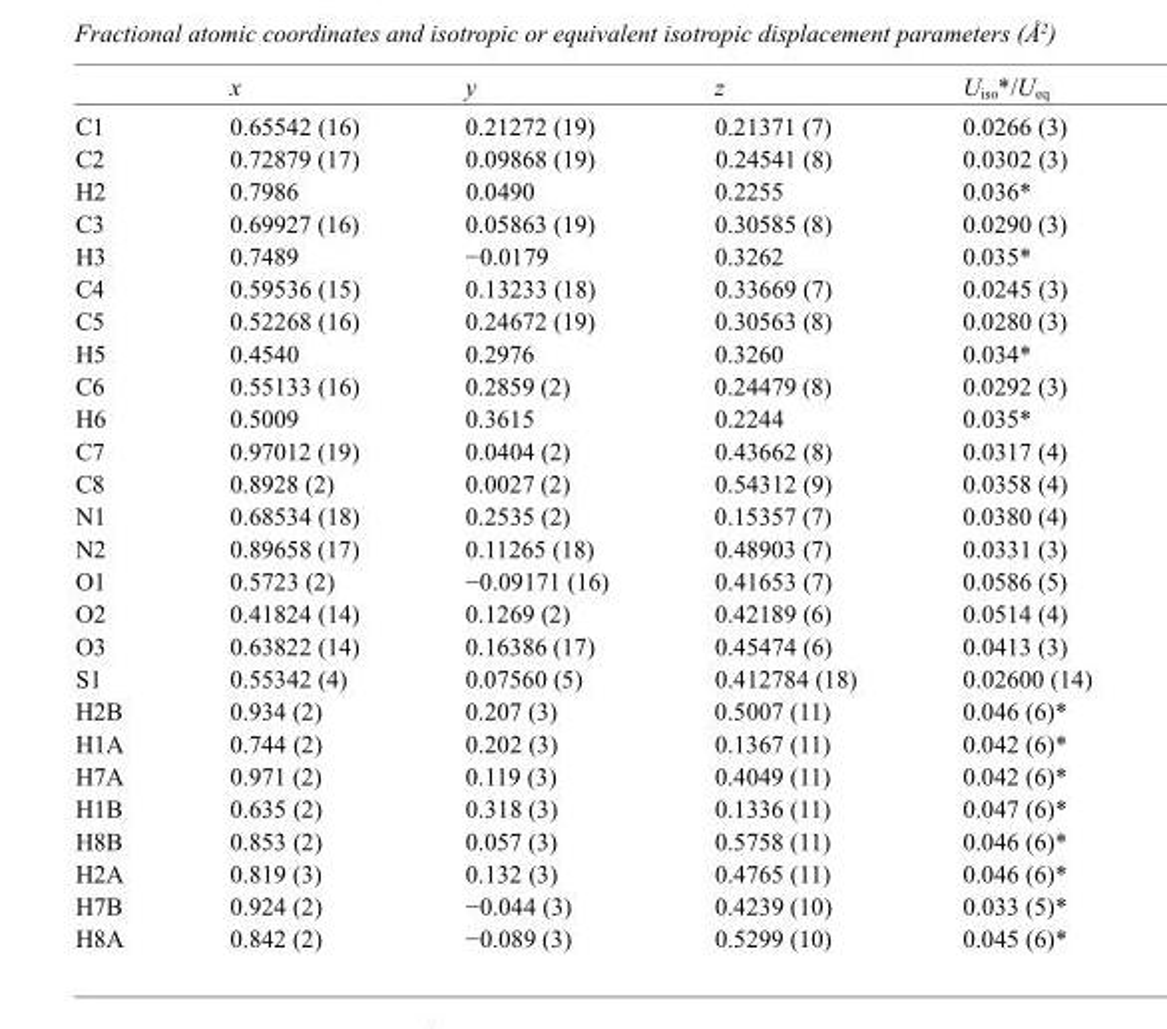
<table><thead><tr><td></td><td>x</td><td>y</td><td>z</td><td>U<sub>iso</sub>*/U<sub>eq</sub></td></tr></thead><tbody><tr><td>C1</td><td>0.65542 (16)</td><td>0.21272 (19)</td><td>0.21371 (7)</td><td>0.0266 (3)</td></tr><tr><td>C2</td><td>0.72879 (17)</td><td>0.09868 (19)</td><td>0.24541 (8)</td><td>0.0302 (3)</td></tr><tr><td>H2</td><td>0.7986</td><td>0.0490</td><td>0.2255</td><td>0.036*</td></tr><tr><td>C3</td><td>0.69927 (16)</td><td>0.05863 (19)</td><td>0.30585 (8)</td><td>0.0290 (3)</td></tr><tr><td>H3</td><td>0.7489</td><td>−0.0179</td><td>0.3262</td><td>0.035*</td></tr><tr><td>C4</td><td>0.59536 (15)</td><td>0.13233 (18)</td><td>0.33669 (7)</td><td>0.0245 (3)</td></tr><tr><td>C5</td><td>0.52268 (16)</td><td>0.24672 (19)</td><td>0.30563 (8)</td><td>0.0280 (3)</td></tr><tr><td>H5</td><td>0.4540</td><td>0.2976</td><td>0.3260</td><td>0.034*</td></tr><tr><td>C6</td><td>0.55133 (16)</td><td>0.2859 (2)</td><td>0.24479 (8)</td><td>0.0292 (3)</td></tr><tr><td>H6</td><td>0.5009</td><td>0.3615</td><td>0.2244</td><td>0.035*</td></tr><tr><td>C7</td><td>0.97012 (19)</td><td>0.0404 (2)</td><td>0.43662 (8)</td><td>0.0317 (4)</td></tr><tr><td>C8</td><td>0.8928 (2)</td><td>0.0027 (2)</td><td>0.54312 (9)</td><td>0.0358 (4)</td></tr><tr><td>N1</td><td>0.68534 (18)</td><td>0.2535 (2)</td><td>0.15357 (7)</td><td>0.0380 (4)</td></tr><tr><td>N2</td><td>0.89658 (17)</td><td>0.11265 (18)</td><td>0.48903 (7)</td><td>0.0331 (3)</td></tr><tr><td>O1</td><td>0.5723 (2)</td><td>−0.09171 (16)</td><td>0.41653 (7)</td><td>0.0586 (5)</td></tr><tr><td>O2</td><td>0.41824 (14)</td><td>0.1269 (2)</td><td>0.42189 (6)</td><td>0.0514 (4)</td></tr><tr><td>O3</td><td>0.63822 (14)</td><td>0.16386 (17)</td><td>0.45474 (6)</td><td>0.0413 (3)</td></tr><tr><td>S1</td><td>0.55342 (4)</td><td>0.07560 (5)</td><td>0.412784 (18)</td><td>0.02600 (14)</td></tr><tr><td>H2B</td><td>0.934 (2)</td><td>0.207 (3)</td><td>0.5007 (11)</td><td>0.046 (6)*</td></tr><tr><td>H1A</td><td>0.744 (2)</td><td>0.202 (3)</td><td>0.1367 (11)</td><td>0.042 (6)*</td></tr><tr><td>H7A</td><td>0.971 (2)</td><td>0.119 (3)</td><td>0.4049 (11)</td><td>0.042 (6)*</td></tr><tr><td>H1B</td><td>0.635 (2)</td><td>0.318 (3)</td><td>0.1336 (11)</td><td>0.047 (6)*</td></tr><tr><td>H8B</td><td>0.853 (2)</td><td>0.057 (3)</td><td>0.5758 (11)</td><td>0.046 (6)*</td></tr><tr><td>H2A</td><td>0.819 (3)</td><td>0.132 (3)</td><td>0.4765 (11)</td><td>0.046 (6)*</td></tr><tr><td>H7B</td><td>0.924 (2)</td><td>−0.044 (3)</td><td>0.4239 (10)</td><td>0.033 (5)*</td></tr><tr><td>H8A</td><td>0.842 (2)</td><td>−0.089 (3)</td><td>0.5299 (10)</td><td>0.045 (6)*</td></tr></tbody></table>